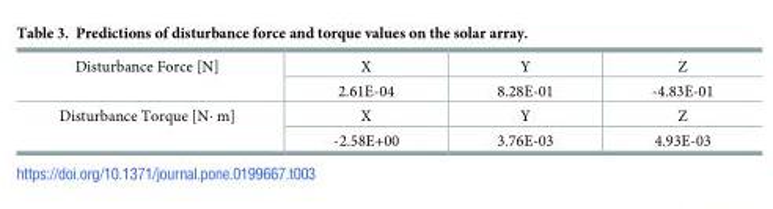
<table><tbody><tr><td rowspan="2">Disturbance Force [N]</td><td>X</td><td>Y</td><td>Z</td></tr><tr><td>2.61E-04</td><td>8.28E-01</td><td>-4.83E-01</td></tr><tr><td rowspan="2">Disturbance Torque [N· m]</td><td>X</td><td>Y</td><td>Z</td></tr><tr><td>-2.58E+00</td><td>3.76E-03</td><td>4.93E-03</td></tr></tbody></table>